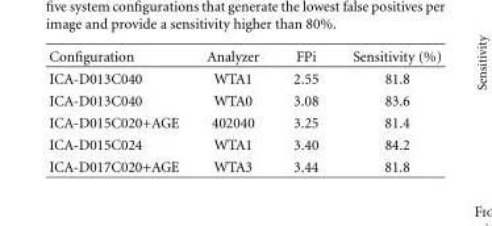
<table><thead><tr><td>Configuration</td><td>Analyzer</td><td>FPi</td><td>Sensitivity (%)</td></tr></thead><tbody><tr><td>ICA-D013C040</td><td>WTA1</td><td>2.55</td><td>81.8</td></tr><tr><td>ICA-D013C040</td><td>WTA0</td><td>3.08</td><td>83.6</td></tr><tr><td>ICA-D015C020+AGE</td><td>402040</td><td>3.25</td><td>81.4</td></tr><tr><td>ICA-D015C024</td><td>WTA1</td><td>3.40</td><td>84.2</td></tr><tr><td>ICA-D017C020+AGE</td><td>WTA3</td><td>3.44</td><td>81.8</td></tr></tbody></table>